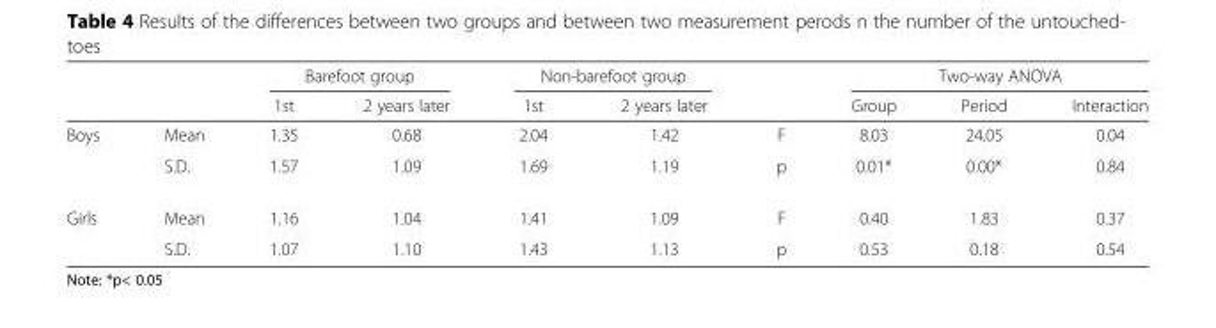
<table><thead><tr><td rowspan="2"></td><td rowspan="2"></td><td colspan="2">Barefoot group</td><td colspan="2">Non-barefoot group</td><td rowspan="2"></td><td colspan="3">Two-way ANOVA</td></tr><tr><td>1st</td><td>2 years later</td><td>1st</td><td>2 years later</td><td>Group</td><td>Period</td><td>Interaction</td></tr></thead><tbody><tr><td rowspan="2">Boys</td><td>Mean</td><td>1.35</td><td>0.68</td><td>2.04</td><td>1.42</td><td>F</td><td>8.03</td><td>24.05</td><td>0.04</td></tr><tr><td>S.D.</td><td>1.57</td><td>1.09</td><td>1.69</td><td>1.19</td><td>p</td><td>0.01*</td><td>0.00*</td><td>0.84</td></tr><tr><td rowspan="2">Girls</td><td>Mean</td><td>1.16</td><td>1.04</td><td>1.41</td><td>1.09</td><td>F</td><td>0.40</td><td>1.83</td><td>0.37</td></tr><tr><td>S.D.</td><td>1.07</td><td>1.10</td><td>1.43</td><td>1.13</td><td>p</td><td>0.53</td><td>0.18</td><td>0.54</td></tr></tbody></table>